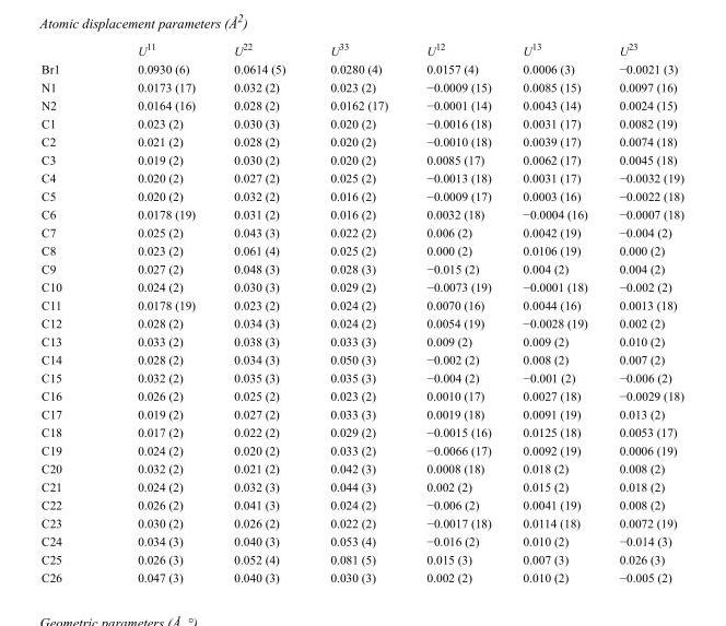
<table><thead><tr><td></td><td>U<sup>11</sup></td><td>U<sup>22</sup></td><td>U<sup>33</sup></td><td>U<sup>12</sup></td><td>U<sup>13</sup></td><td>U<sup>23</sup></td></tr></thead><tbody><tr><td>Br1</td><td>0.0930 (6)</td><td>0.0614 (5)</td><td>0.0280 (4)</td><td>0.0157 (4)</td><td>0.0006 (3)</td><td>−0.0021 (3)</td></tr><tr><td>N1</td><td>0.0173 (17)</td><td>0.032 (2)</td><td>0.023 (2)</td><td>−0.0009 (15)</td><td>0.0085 (15)</td><td>0.0097 (16)</td></tr><tr><td>N2</td><td>0.0164 (16)</td><td>0.028 (2)</td><td>0.0162 (17)</td><td>−0.0001 (14)</td><td>0.0043 (14)</td><td>0.0024 (15)</td></tr><tr><td>C1</td><td>0.023 (2)</td><td>0.030 (3)</td><td>0.020 (2)</td><td>−0.0016 (18)</td><td>0.0031 (17)</td><td>0.0082 (19)</td></tr><tr><td>C2</td><td>0.021 (2)</td><td>0.028 (2)</td><td>0.020 (2)</td><td>−0.0010 (18)</td><td>0.0039 (17)</td><td>0.0074 (18)</td></tr><tr><td>C3</td><td>0.019 (2)</td><td>0.030 (2)</td><td>0.020 (2)</td><td>0.0085 (17)</td><td>0.0062 (17)</td><td>0.0045 (18)</td></tr><tr><td>C4</td><td>0.020 (2)</td><td>0.027 (2)</td><td>0.025 (2)</td><td>−0.0013 (18)</td><td>0.0031 (17)</td><td>−0.0032 (19)</td></tr><tr><td>C5</td><td>0.020 (2)</td><td>0.032 (2)</td><td>0.016 (2)</td><td>−0.0009 (17)</td><td>0.0003 (16)</td><td>−0.0022 (18)</td></tr><tr><td>C6</td><td>0.0178 (19)</td><td>0.031 (2)</td><td>0.016 (2)</td><td>0.0032 (18)</td><td>−0.0004 (16)</td><td>−0.0007 (18)</td></tr><tr><td>C7</td><td>0.025 (2)</td><td>0.043 (3)</td><td>0.022 (2)</td><td>0.006 (2)</td><td>0.0042 (19)</td><td>−0.004 (2)</td></tr><tr><td>C8</td><td>0.023 (2)</td><td>0.061 (4)</td><td>0.025 (2)</td><td>0.000 (2)</td><td>0.0106 (19)</td><td>0.000 (2)</td></tr><tr><td>C9</td><td>0.027 (2)</td><td>0.048 (3)</td><td>0.028 (3)</td><td>−0.015 (2)</td><td>0.004 (2)</td><td>0.004 (2)</td></tr><tr><td>C10</td><td>0.024 (2)</td><td>0.030 (3)</td><td>0.029 (2)</td><td>−0.0073 (19)</td><td>−0.0001 (18)</td><td>−0.002 (2)</td></tr><tr><td>C11</td><td>0.0178 (19)</td><td>0.023 (2)</td><td>0.024 (2)</td><td>0.0070 (16)</td><td>0.0044 (16)</td><td>0.0013 (18)</td></tr><tr><td>C12</td><td>0.028 (2)</td><td>0.034 (3)</td><td>0.024 (2)</td><td>0.0054 (19)</td><td>−0.0028 (19)</td><td>0.002 (2)</td></tr><tr><td>C13</td><td>0.033 (2)</td><td>0.038 (3)</td><td>0.033 (3)</td><td>0.009 (2)</td><td>0.009 (2)</td><td>0.010 (2)</td></tr><tr><td>C14</td><td>0.028 (2)</td><td>0.034 (3)</td><td>0.050 (3)</td><td>−0.002 (2)</td><td>0.008 (2)</td><td>0.007 (2)</td></tr><tr><td>C15</td><td>0.032 (2)</td><td>0.035 (3)</td><td>0.035 (3)</td><td>−0.004 (2)</td><td>−0.001 (2)</td><td>−0.006 (2)</td></tr><tr><td>C16</td><td>0.026 (2)</td><td>0.025 (2)</td><td>0.023 (2)</td><td>0.0010 (17)</td><td>0.0027 (18)</td><td>−0.0029 (18)</td></tr><tr><td>C17</td><td>0.019 (2)</td><td>0.027 (2)</td><td>0.033 (3)</td><td>0.0019 (18)</td><td>0.0091 (19)</td><td>0.013 (2)</td></tr><tr><td>C18</td><td>0.017 (2)</td><td>0.022 (2)</td><td>0.029 (2)</td><td>−0.0015 (16)</td><td>0.0125 (18)</td><td>0.0053 (17)</td></tr><tr><td>C19</td><td>0.024 (2)</td><td>0.020 (2)</td><td>0.033 (2)</td><td>−0.0066 (17)</td><td>0.0092 (19)</td><td>0.0006 (19)</td></tr><tr><td>C20</td><td>0.032 (2)</td><td>0.021 (2)</td><td>0.042 (3)</td><td>0.0008 (18)</td><td>0.018 (2)</td><td>0.008 (2)</td></tr><tr><td>C21</td><td>0.024 (2)</td><td>0.032 (3)</td><td>0.044 (3)</td><td>0.002 (2)</td><td>0.015 (2)</td><td>0.018 (2)</td></tr><tr><td>C22</td><td>0.026 (2)</td><td>0.041 (3)</td><td>0.024 (2)</td><td>−0.006 (2)</td><td>0.0041 (19)</td><td>0.008 (2)</td></tr><tr><td>C23</td><td>0.030 (2)</td><td>0.026 (2)</td><td>0.022 (2)</td><td>−0.0017 (18)</td><td>0.0114 (18)</td><td>0.0072 (19)</td></tr><tr><td>C24</td><td>0.034 (3)</td><td>0.040 (3)</td><td>0.053 (4)</td><td>−0.016 (2)</td><td>0.010 (2)</td><td>−0.014 (3)</td></tr><tr><td>C25</td><td>0.026 (3)</td><td>0.052 (4)</td><td>0.081 (5)</td><td>0.015 (3)</td><td>0.007 (3)</td><td>0.026 (3)</td></tr><tr><td>C26</td><td>0.047 (3)</td><td>0.040 (3)</td><td>0.030 (3)</td><td>0.002 (2)</td><td>0.010 (2)</td><td>−0.005 (2)</td></tr></tbody></table>